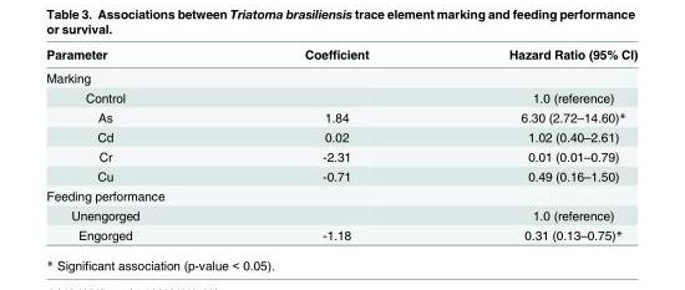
<table><thead><tr><td>Parameter</td><td>Coefficient</td><td>Hazard Ratio (95% CI)</td></tr></thead><tbody><tr><td colspan="3">Marking</td></tr><tr><td>Control</td><td></td><td>1.0 (reference)</td></tr><tr><td>As</td><td>1.84</td><td>6.30 (2.72–14.60)*</td></tr><tr><td>Cd</td><td>0.02</td><td>1.02 (0.40–2.61)</td></tr><tr><td>Cr</td><td>-2.31</td><td>0.01 (0.01–0.79)</td></tr><tr><td>Cu</td><td>-0.71</td><td>0.49 (0.16–1.50)</td></tr><tr><td colspan="3">Feeding performance</td></tr><tr><td>Unengorged</td><td></td><td>1.0 (reference)</td></tr><tr><td>Engorged</td><td>-1.18</td><td>0.31 (0.13–0.75)*</td></tr></tbody></table>